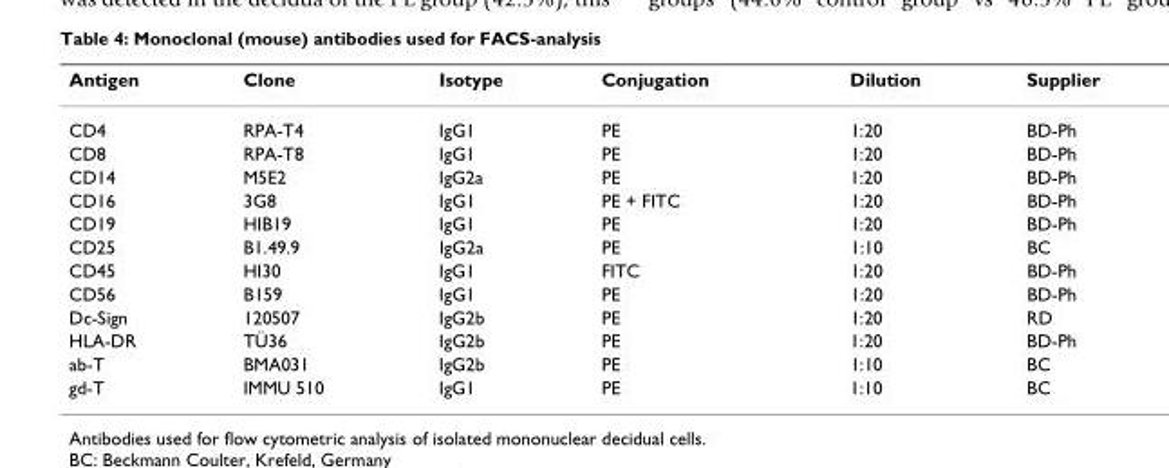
<table><thead><tr><td>Antigen</td><td>Clone</td><td>Isotype</td><td>Conjugation</td><td>Dilution</td><td>Supplier</td></tr></thead><tbody><tr><td>CD4</td><td>RPA-T4</td><td>IgG1</td><td>PE</td><td>1:20</td><td>BD-Ph</td></tr><tr><td>CD8</td><td>RPA-T8</td><td>IgG1</td><td>PE</td><td>1:20</td><td>BD-Ph</td></tr><tr><td>CD14</td><td>M5E2</td><td>IgG2a</td><td>PE</td><td>1:20</td><td>BD-Ph</td></tr><tr><td>CD16</td><td>3G8</td><td>IgG1</td><td>PE + FITC</td><td>1:20</td><td>BD-Ph</td></tr><tr><td>CD19</td><td>HIB19</td><td>IgG1</td><td>PE</td><td>1:20</td><td>BD-Ph</td></tr><tr><td>CD25</td><td>B1.49.9</td><td>IgG2a</td><td>PE</td><td>1:10</td><td>BC</td></tr><tr><td>CD45</td><td>HI30</td><td>IgG1</td><td>FITC</td><td>1:20</td><td>BD-Ph</td></tr><tr><td>CD56</td><td>B159</td><td>IgG1</td><td>PE</td><td>1:20</td><td>BD-Ph</td></tr><tr><td>Dc-Sign</td><td>120507</td><td>IgG2b</td><td>PE</td><td>1:20</td><td>RD</td></tr><tr><td>HLA-DR</td><td>TÜ36</td><td>IgG2b</td><td>PE</td><td>1:20</td><td>BD-Ph</td></tr><tr><td>ab-T</td><td>BMA031</td><td>IgG2b</td><td>PE</td><td>1:10</td><td>BC</td></tr><tr><td>gd-T</td><td>IMMU 510</td><td>IgG1</td><td>PE</td><td>1:10</td><td>BC</td></tr></tbody></table>